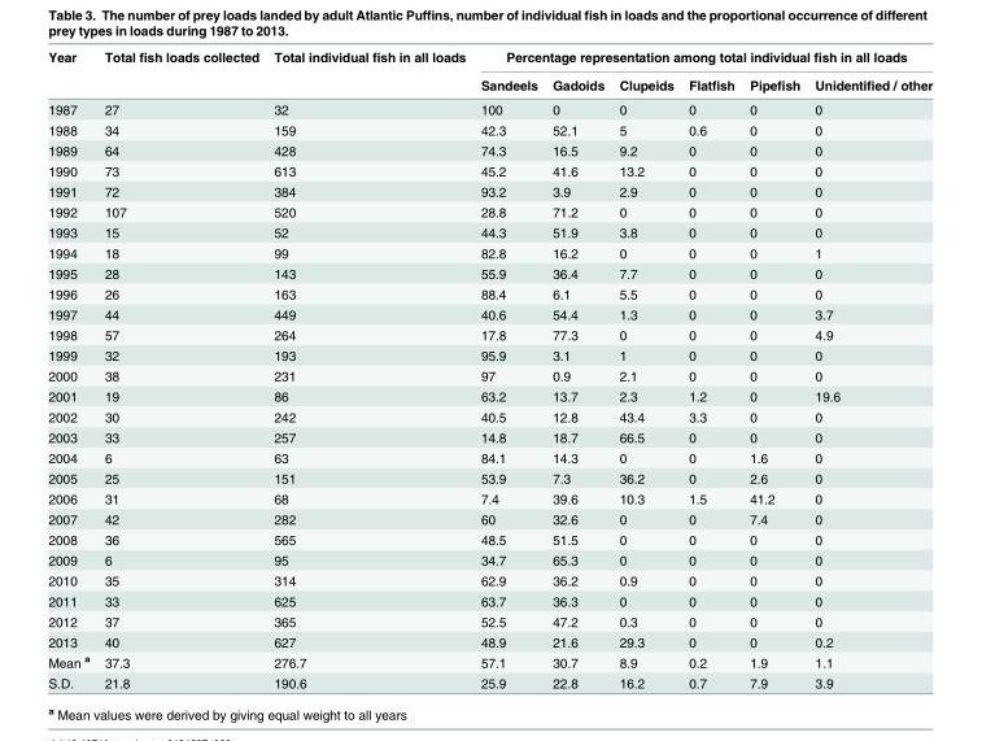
<table><thead><tr><td rowspan="2">Year</td><td rowspan="2">Total fish loads collected</td><td rowspan="2">Total individual fish in all loads</td><td colspan="6">Percentage representation among total individual fish in all loads</td></tr><tr><td>Sandeels</td><td>Gadoids</td><td>Clupeids</td><td>Flatfish</td><td>Pipefish</td><td>Unidentified / other</td></tr></thead><tbody><tr><td>1987</td><td>27</td><td>32</td><td>100</td><td>0</td><td>0</td><td>0</td><td>0</td><td>0</td></tr><tr><td>1988</td><td>34</td><td>159</td><td>42.3</td><td>52.1</td><td>5</td><td>0.6</td><td>0</td><td>0</td></tr><tr><td>1989</td><td>64</td><td>428</td><td>74.3</td><td>16.5</td><td>9.2</td><td>0</td><td>0</td><td>0</td></tr><tr><td>1990</td><td>73</td><td>613</td><td>45.2</td><td>41.6</td><td>13.2</td><td>0</td><td>0</td><td>0</td></tr><tr><td>1991</td><td>72</td><td>384</td><td>93.2</td><td>3.9</td><td>2.9</td><td>0</td><td>0</td><td>0</td></tr><tr><td>1992</td><td>107</td><td>520</td><td>28.8</td><td>71.2</td><td>0</td><td>0</td><td>0</td><td>0</td></tr><tr><td>1993</td><td>15</td><td>52</td><td>44.3</td><td>51.9</td><td>3.8</td><td>0</td><td>0</td><td>0</td></tr><tr><td>1994</td><td>18</td><td>99</td><td>82.8</td><td>16.2</td><td>0</td><td>0</td><td>0</td><td>1</td></tr><tr><td>1995</td><td>28</td><td>143</td><td>55.9</td><td>36.4</td><td>7.7</td><td>0</td><td>0</td><td>0</td></tr><tr><td>1996</td><td>26</td><td>163</td><td>88.4</td><td>6.1</td><td>5.5</td><td>0</td><td>0</td><td>0</td></tr><tr><td>1997</td><td>44</td><td>449</td><td>40.6</td><td>54.4</td><td>1.3</td><td>0</td><td>0</td><td>3.7</td></tr><tr><td>1998</td><td>57</td><td>264</td><td>17.8</td><td>77.3</td><td>0</td><td>0</td><td>0</td><td>4.9</td></tr><tr><td>1999</td><td>32</td><td>193</td><td>95.9</td><td>3.1</td><td>1</td><td>0</td><td>0</td><td>0</td></tr><tr><td>2000</td><td>38</td><td>231</td><td>97</td><td>0.9</td><td>2.1</td><td>0</td><td>0</td><td>0</td></tr><tr><td>2001</td><td>19</td><td>86</td><td>63.2</td><td>13.7</td><td>2.3</td><td>1.2</td><td>0</td><td>19.6</td></tr><tr><td>2002</td><td>30</td><td>242</td><td>40.5</td><td>12.8</td><td>43.4</td><td>3.3</td><td>0</td><td>0</td></tr><tr><td>2003</td><td>33</td><td>257</td><td>14.8</td><td>18.7</td><td>66.5</td><td>0</td><td>0</td><td>0</td></tr><tr><td>2004</td><td>6</td><td>63</td><td>84.1</td><td>14.3</td><td>0</td><td>0</td><td>1.6</td><td>0</td></tr><tr><td>2005</td><td>25</td><td>151</td><td>53.9</td><td>7.3</td><td>36.2</td><td>0</td><td>2.6</td><td>0</td></tr><tr><td>2006</td><td>31</td><td>68</td><td>7.4</td><td>39.6</td><td>10.3</td><td>1.5</td><td>41.2</td><td>0</td></tr><tr><td>2007</td><td>42</td><td>282</td><td>60</td><td>32.6</td><td>0</td><td>0</td><td>7.4</td><td>0</td></tr><tr><td>2008</td><td>36</td><td>565</td><td>48.5</td><td>51.5</td><td>0</td><td>0</td><td>0</td><td>0</td></tr><tr><td>2009</td><td>6</td><td>95</td><td>34.7</td><td>65.3</td><td>0</td><td>0</td><td>0</td><td>0</td></tr><tr><td>2010</td><td>35</td><td>314</td><td>62.9</td><td>36.2</td><td>0.9</td><td>0</td><td>0</td><td>0</td></tr><tr><td>2011</td><td>33</td><td>625</td><td>63.7</td><td>36.3</td><td>0</td><td>0</td><td>0</td><td>0</td></tr><tr><td>2012</td><td>37</td><td>365</td><td>52.5</td><td>47.2</td><td>0.3</td><td>0</td><td>0</td><td>0</td></tr><tr><td>2013</td><td>40</td><td>627</td><td>48.9</td><td>21.6</td><td>29.3</td><td>0</td><td>0</td><td>0.2</td></tr><tr><td>Mean <sup>a</sup></td><td>37.3</td><td>276.7</td><td>57.1</td><td>30.7</td><td>8.9</td><td>0.2</td><td>1.9</td><td>1.1</td></tr><tr><td>S.D.</td><td>21.8</td><td>190.6</td><td>25.9</td><td>22.8</td><td>16.2</td><td>0.7</td><td>7.9</td><td>3.9</td></tr></tbody></table>